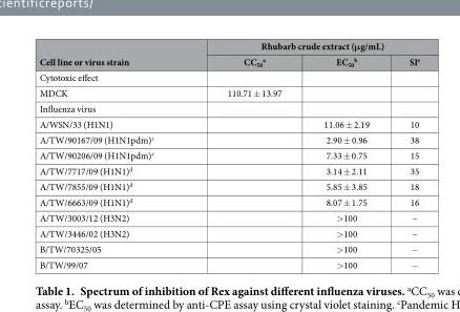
<table><thead><tr><td rowspan="2">Cell line or virus strain</td><td colspan="3">Rhubarb crude extract (μg/mL)</td></tr><tr><td>CC<sub>50</sub> <sup>a</sup></td><td>EC<sub>50</sub> <sup>b</sup></td><td>SI<sup>e</sup></td></tr></thead><tbody><tr><td colspan="4">Cytotoxic effect</td></tr><tr><td>MDCK</td><td>110.71 ± 13.97</td><td></td><td></td></tr><tr><td colspan="4">Influenza virus</td></tr><tr><td>A/WSN/33 (H1N1)</td><td></td><td>11.06 ± 2.19</td><td>10</td></tr><tr><td>A/TW/90167/09 (H1N1pdm)<sup>c</sup></td><td></td><td>2.90 ± 0.96</td><td>38</td></tr><tr><td>A/TW/90206/09 (H1N1pdm)<sup>c</sup></td><td></td><td>7.33 ± 0.75</td><td>15</td></tr><tr><td>A/TW/7717/09 (H1N1)<sup>d</sup></td><td></td><td>3.14 ± 2.11</td><td>35</td></tr><tr><td>A/TW/7855/09 (H1N1)<sup>d</sup></td><td></td><td>5.85 ± 3.85</td><td>18</td></tr><tr><td>A/TW/6663/09 (H1N1)<sup>d</sup></td><td></td><td>8.07 ± 1.75</td><td>16</td></tr><tr><td>A/TW/3003/12 (H3N2)</td><td></td><td>&gt; 100</td><td>–</td></tr><tr><td>A/TW/3446/02 (H3N2)</td><td></td><td>&gt; 100</td><td>–</td></tr><tr><td>B/TW/70325/05</td><td></td><td>&gt; 100</td><td>−</td></tr><tr><td>B/TW/99/07</td><td></td><td>&gt; 100</td><td>−</td></tr></tbody></table>